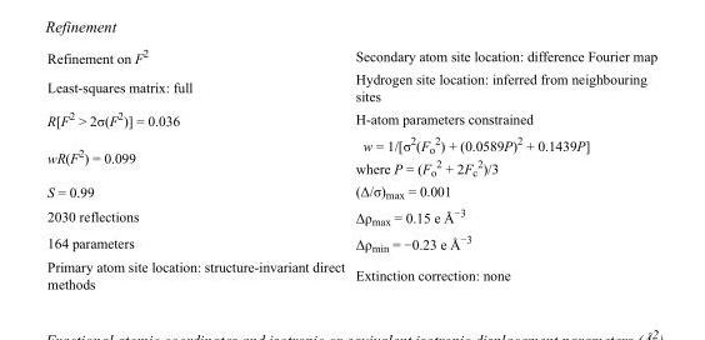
<table><tbody><tr><td>Refinement on F<sup>2</sup></td><td>Secondary atom site location: difference Fourier map</td></tr><tr><td>Least-squares matrix: full</td><td>Hydrogen site location: inferred from neighbouring sites</td></tr><tr><td>R[F<sup>2</sup> &gt; 2σ(F<sup>2</sup>)] = 0.036</td><td>H-atom parameters constrained</td></tr><tr><td>wR(F<sup>2</sup>) = 0.099</td><td>w = 1/[σ<sup>2</sup>(F<sub>o</sub> <sup>2</sup>) + (0.0589P)<sup>2</sup> + 0.1439P] where P = (F<sub>o</sub> <sup>2</sup> + 2F<sub>c</sub> <sup>2</sup>)/3</td></tr><tr><td>S = 0.99</td><td>(Δ/σ)<sub>max</sub> = 0.001</td></tr><tr><td>2030 reflections</td><td>Δρ<sub>max</sub> = 0.15 e Å<sup>−3</sup></td></tr><tr><td>164 parameters</td><td>Δρ<sub>min</sub> = −0.23 e Å<sup>−3</sup></td></tr><tr><td>Primary atom site location: structure-invariant direct methods</td><td>Extinction correction: none</td></tr></tbody></table>